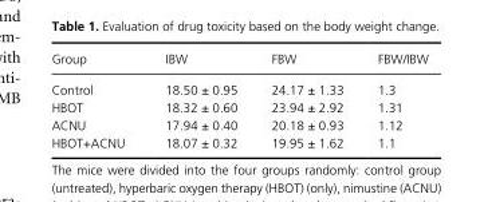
<table><thead><tr><td>Group</td><td>IBW</td><td>FBW</td><td>FBW/IBW</td></tr></thead><tbody><tr><td>Control</td><td>18.50 ± 0.95</td><td>24.17 ± 1.33</td><td>1.3</td></tr><tr><td>HBOT</td><td>18.32 ± 0.60</td><td>23.94 ± 2.92</td><td>1.31</td></tr><tr><td>ACNU</td><td>17.94 ± 0.40</td><td>20.18 ± 0.93</td><td>1.12</td></tr><tr><td>HBOT+ACNU</td><td>18.07 ± 0.32</td><td>19.95 ± 1.62</td><td>1.1</td></tr></tbody></table>